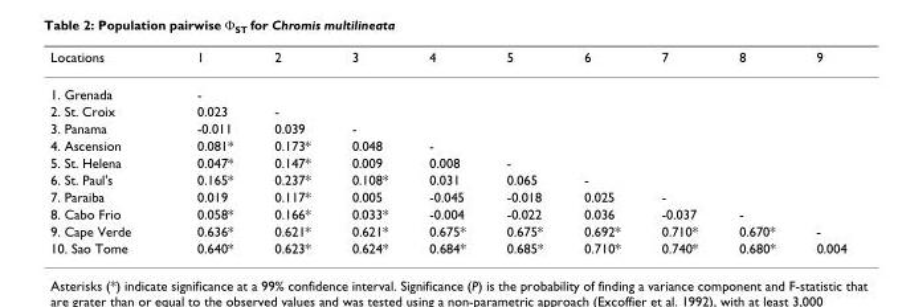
<table><thead><tr><td>Locations</td><td>1</td><td>2</td><td>3</td><td>4</td><td>5</td><td>6</td><td>7</td><td>8</td><td>9</td></tr></thead><tbody><tr><td>1. Grenada</td><td>-</td><td></td><td></td><td></td><td></td><td></td><td></td><td></td><td></td></tr><tr><td>2. St. Croix</td><td>0.023</td><td>-</td><td></td><td></td><td></td><td></td><td></td><td></td><td></td></tr><tr><td>3. Panama</td><td>-0.011</td><td>0.039</td><td>-</td><td></td><td></td><td></td><td></td><td></td><td></td></tr><tr><td>4. Ascension</td><td>0.081*</td><td>0.173*</td><td>0.048</td><td>-</td><td></td><td></td><td></td><td></td><td></td></tr><tr><td>5. St. Helena</td><td>0.047*</td><td>0.147*</td><td>0.009</td><td>0.008</td><td>-</td><td></td><td></td><td></td><td></td></tr><tr><td>6. St. Paul&#x27;s</td><td>0.165*</td><td>0.237*</td><td>0.108*</td><td>0.031</td><td>0.065</td><td>-</td><td></td><td></td><td></td></tr><tr><td>7. Paraiba</td><td>0.019</td><td>0.117*</td><td>0.005</td><td>-0.045</td><td>-0.018</td><td>0.025</td><td>-</td><td></td><td></td></tr><tr><td>8. Cabo Frio</td><td>0.058*</td><td>0.166*</td><td>0.033*</td><td>-0.004</td><td>-0.022</td><td>0.036</td><td>-0.037</td><td>-</td><td></td></tr><tr><td>9. Cape Verde</td><td>0.636*</td><td>0.621*</td><td>0.621*</td><td>0.675*</td><td>0.675*</td><td>0.692*</td><td>0.710*</td><td>0.670*</td><td>-</td></tr><tr><td>10. Sao Tome</td><td>0.640*</td><td>0.623*</td><td>0.624*</td><td>0.684*</td><td>0.685*</td><td>0.710*</td><td>0.740*</td><td>0.680*</td><td>0.004</td></tr></tbody></table>